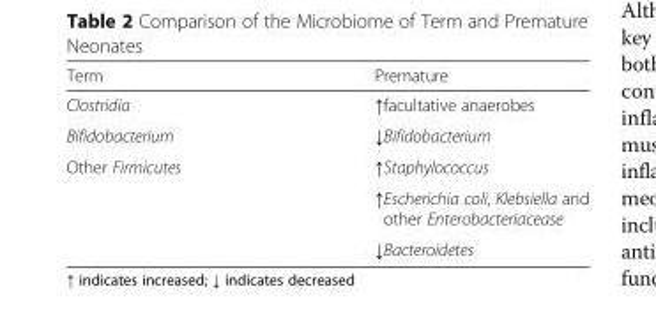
<table><thead><tr><td>Term</td><td>Premature</td></tr></thead><tbody><tr><td>Clostridia</td><td>↑facultative anaerobes</td></tr><tr><td>Bifidobacterium</td><td>↓Bifidobacterium</td></tr><tr><td rowspan="3">Other Firmicutes</td><td>↑Staphylococcus</td></tr><tr><td>↑Escherichia coli, Klebsiella and other Enterobacteriacease</td></tr><tr><td>↓Bacteroidetes</td></tr></tbody></table>